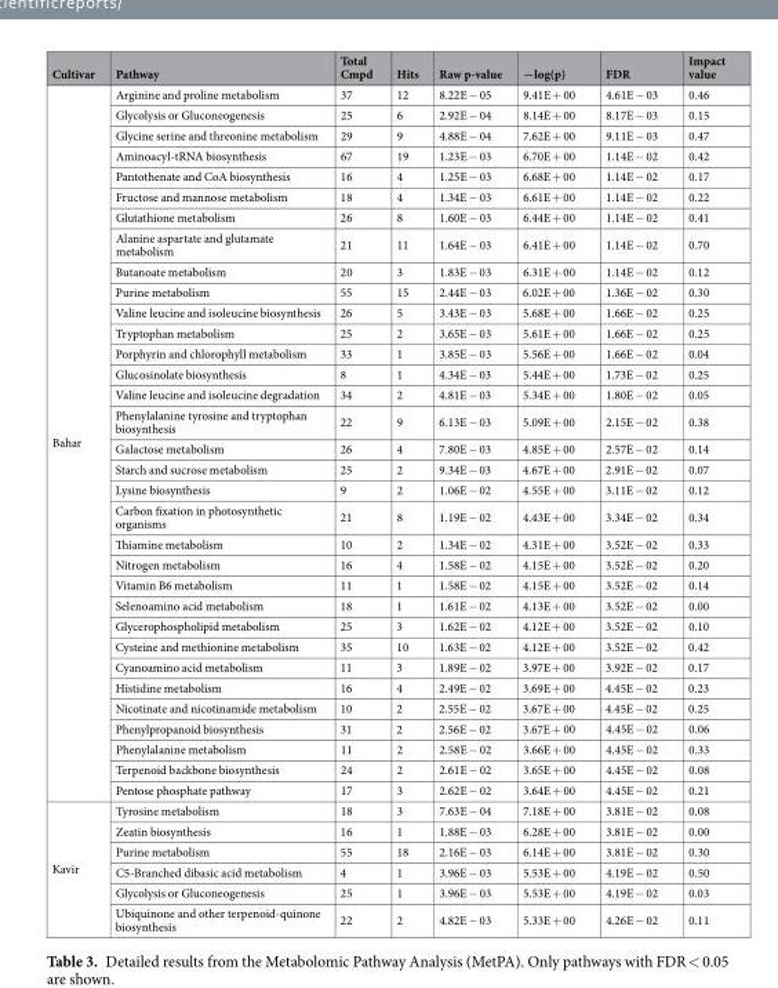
<table><thead><tr><td>Cultivar</td><td>Pathway</td><td>Total Cmpd</td><td>Hits</td><td>Raw p-value</td><td>−log(p)</td><td>FDR</td><td>Impact value</td></tr></thead><tbody><tr><td rowspan="33">Bahar</td><td>Arginine and proline metabolism</td><td>37</td><td>12</td><td>8.22E − 05</td><td>9.41E + 00</td><td>4.61E − 03</td><td>0.46</td></tr><tr><td>Glycolysis or Gluconeogenesis</td><td>25</td><td>6</td><td>2.92E − 04</td><td>8.14E + 00</td><td>8.17E − 03</td><td>0.15</td></tr><tr><td>Glycine serine and threonine metabolism</td><td>29</td><td>9</td><td>4.88E − 04</td><td>7.62E + 00</td><td>9.11E − 03</td><td>0.47</td></tr><tr><td>Aminoacyl-tRNA biosynthesis</td><td>67</td><td>19</td><td>1.23E − 03</td><td>6.70E + 00</td><td>1.14E − 02</td><td>0.42</td></tr><tr><td>Pantothenate and CoA biosynthesis</td><td>16</td><td>4</td><td>1.25E − 03</td><td>6.68E + 00</td><td>1.14E − 02</td><td>0.17</td></tr><tr><td>Fructose and mannose metabolism</td><td>18</td><td>4</td><td>1.34E − 03</td><td>6.61E + 00</td><td>1.14E − 02</td><td>0.22</td></tr><tr><td>Glutathione metabolism</td><td>26</td><td>8</td><td>1.60E − 03</td><td>6.44E + 00</td><td>1.14E − 02</td><td>0.41</td></tr><tr><td>Alanine aspartate and glutamate metabolism</td><td>21</td><td>11</td><td>1.64E − 03</td><td>6.41E + 00</td><td>1.14E − 02</td><td>0.70</td></tr><tr><td>Butanoate metabolism</td><td>20</td><td>3</td><td>1.83E − 03</td><td>6.31E + 00</td><td>1.14E − 02</td><td>0.12</td></tr><tr><td>Purine metabolism</td><td>55</td><td>15</td><td>2.44E − 03</td><td>6.02E + 00</td><td>1.36E − 02</td><td>0.30</td></tr><tr><td>Valine leucine and isoleucine biosynthesis</td><td>26</td><td>5</td><td>3.43E − 03</td><td>5.68E + 00</td><td>1.66E − 02</td><td>0.25</td></tr><tr><td>Tryptophan metabolism</td><td>25</td><td>2</td><td>3.65E − 03</td><td>5.61E + 00</td><td>1.66E − 02</td><td>0.25</td></tr><tr><td>Porphyrin and chlorophyll metabolism</td><td>33</td><td>1</td><td>3.85E − 03</td><td>5.56E + 00</td><td>1.66E − 02</td><td>0.04</td></tr><tr><td>Glucosinolate biosynthesis</td><td>8</td><td>1</td><td>4.34E − 03</td><td>5.44E + 00</td><td>1.73E − 02</td><td>0.25</td></tr><tr><td>Valine leucine and isoleucine degradation</td><td>34</td><td>2</td><td>4.81E − 03</td><td>5.34E + 00</td><td>1.80E − 02</td><td>0.05</td></tr><tr><td>Phenylalanine tyrosine and tryptophan biosynthesis</td><td>22</td><td>9</td><td>6.13E − 03</td><td>5.09E + 00</td><td>2.15E − 02</td><td>0.38</td></tr><tr><td>Galactose metabolism</td><td>26</td><td>4</td><td>7.80E − 03</td><td>4.85E + 00</td><td>2.57E − 02</td><td>0.14</td></tr><tr><td>Starch and sucrose metabolism</td><td>25</td><td>2</td><td>9.34E − 03</td><td>4.67E + 00</td><td>2.91E − 02</td><td>0.07</td></tr><tr><td>Lysine biosynthesis</td><td>9</td><td>2</td><td>1.06E − 02</td><td>4.55E + 00</td><td>3.11E − 02</td><td>0.12</td></tr><tr><td>Carbon fixation in photosynthetic organisms</td><td>21</td><td>8</td><td>1.19E − 02</td><td>4.43E + 00</td><td>3.34E − 02</td><td>0.34</td></tr><tr><td>Thiamine metabolism</td><td>10</td><td>2</td><td>1.34E − 02</td><td>4.31E + 00</td><td>3.52E − 02</td><td>0.33</td></tr><tr><td>Nitrogen metabolism</td><td>16</td><td>4</td><td>1.58E − 02</td><td>4.15E + 00</td><td>3.52E − 02</td><td>0.20</td></tr><tr><td>Vitamin B6 metabolism</td><td>11</td><td>1</td><td>1.58E − 02</td><td>4.15E + 00</td><td>3.52E − 02</td><td>0.14</td></tr><tr><td>Selenoamino acid metabolism</td><td>18</td><td>1</td><td>1.61E − 02</td><td>4.13E + 00</td><td>3.52E − 02</td><td>0.00</td></tr><tr><td>Glycerophospholipid metabolism</td><td>25</td><td>3</td><td>1.62E − 02</td><td>4.12E + 00</td><td>3.52E − 02</td><td>0.10</td></tr><tr><td>Cysteine and methionine metabolism</td><td>35</td><td>10</td><td>1.63E − 02</td><td>4.12E + 00</td><td>3.52E − 02</td><td>0.42</td></tr><tr><td>Cyanoamino acid metabolism</td><td>11</td><td>3</td><td>1.89E − 02</td><td>3.97E + 00</td><td>3.92E − 02</td><td>0.17</td></tr><tr><td>Histidine metabolism</td><td>16</td><td>4</td><td>2.49E − 02</td><td>3.69E + 00</td><td>4.45E − 02</td><td>0.23</td></tr><tr><td>Nicotinate and nicotinamide metabolism</td><td>10</td><td>2</td><td>2.55E − 02</td><td>3.67E + 00</td><td>4.45E − 02</td><td>0.25</td></tr><tr><td>Phenylpropanoid biosynthesis</td><td>31</td><td>2</td><td>2.56E − 02</td><td>3.67E + 00</td><td>4.45E − 02</td><td>0.06</td></tr><tr><td>Phenylalanine metabolism</td><td>11</td><td>2</td><td>2.58E − 02</td><td>3.66E + 00</td><td>4.45E − 02</td><td>0.33</td></tr><tr><td>Terpenoid backbone biosynthesis</td><td>24</td><td>2</td><td>2.61E − 02</td><td>3.65E + 00</td><td>4.45E − 02</td><td>0.08</td></tr><tr><td>Pentose phosphate pathway</td><td>17</td><td>3</td><td>2.62E − 02</td><td>3.64E + 00</td><td>4.45E − 02</td><td>0.21</td></tr><tr><td rowspan="6">Kavir</td><td>Tyrosine metabolism</td><td>18</td><td>3</td><td>7.63E − 04</td><td>7.18E + 00</td><td>3.81E − 02</td><td>0.08</td></tr><tr><td>Zeatin biosynthesis</td><td>16</td><td>1</td><td>1.88E − 03</td><td>6.28E + 00</td><td>3.81E − 02</td><td>0.00</td></tr><tr><td>Purine metabolism</td><td>55</td><td>18</td><td>2.16E − 03</td><td>6.14E + 00</td><td>3.81E − 02</td><td>0.30</td></tr><tr><td>C5-Branched dibasic acid metabolism</td><td>4</td><td>1</td><td>3.96E − 03</td><td>5.53E + 00</td><td>4.19E − 02</td><td>0.50</td></tr><tr><td>Glycolysis or Gluconeogenesis</td><td>25</td><td>1</td><td>3.96E − 03</td><td>5.53E + 00</td><td>4.19E − 02</td><td>0.03</td></tr><tr><td>Ubiquinone and other terpenoid-quinone biosynthesis</td><td>22</td><td>2</td><td>4.82E − 03</td><td>5.33E + 00</td><td>4.26E − 02</td><td>0.11</td></tr></tbody></table>